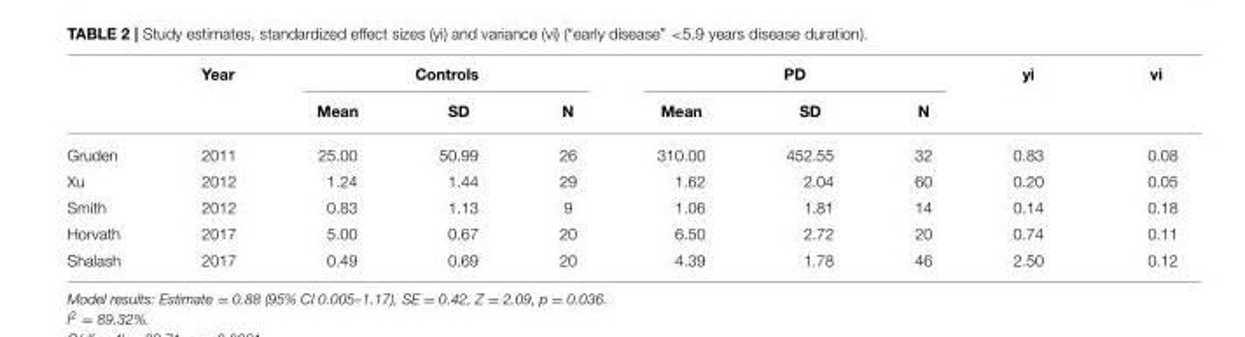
<table><thead><tr><td rowspan="2"></td><td rowspan="2">Year</td><td colspan="3">Controls</td><td colspan="3">PD</td><td rowspan="2">yi</td><td rowspan="2">vi</td></tr><tr><td>Mean</td><td>SD</td><td>N</td><td>Mean</td><td>SD</td><td>N</td></tr></thead><tbody><tr><td>Gruden</td><td>2011</td><td>25.00</td><td>50.99</td><td>26</td><td>310.00</td><td>452.55</td><td>32</td><td>0.83</td><td>0.08</td></tr><tr><td>Xu</td><td>2012</td><td>1.24</td><td>1.44</td><td>29</td><td>1.62</td><td>2.04</td><td>60</td><td>0.20</td><td>0.05</td></tr><tr><td>Smith</td><td>2012</td><td>0.83</td><td>1.13</td><td>9</td><td>1.06</td><td>1.81</td><td>14</td><td>0.14</td><td>0.18</td></tr><tr><td>Horvath</td><td>2017</td><td>5.00</td><td>0.67</td><td>20</td><td>6.50</td><td>2.72</td><td>20</td><td>0.74</td><td>0.11</td></tr><tr><td>Shalash</td><td>2017</td><td>0.49</td><td>0.69</td><td>20</td><td>4.39</td><td>1.78</td><td>46</td><td>2.50</td><td>0.12</td></tr></tbody></table>